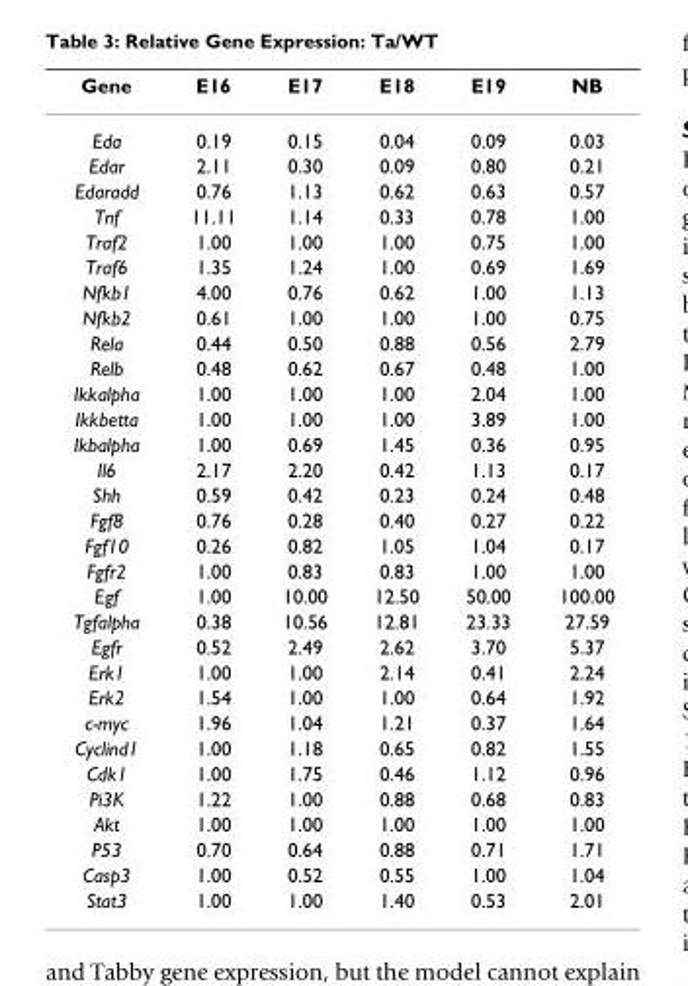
<table><thead><tr><td>Gene</td><td>E16</td><td>E17</td><td>E18</td><td>E19</td><td>NB</td></tr></thead><tbody><tr><td>Eda</td><td>0.19</td><td>0.15</td><td>0.04</td><td>0.09</td><td>0.03</td></tr><tr><td>Edar</td><td>2.11</td><td>0.30</td><td>0.09</td><td>0.80</td><td>0.21</td></tr><tr><td>Edaradd</td><td>0.76</td><td>1.13</td><td>0.62</td><td>0.63</td><td>0.57</td></tr><tr><td>Tnf</td><td>11.11</td><td>1.14</td><td>0.33</td><td>0.78</td><td>1.00</td></tr><tr><td>Traf2</td><td>1.00</td><td>1.00</td><td>1.00</td><td>0.75</td><td>1.00</td></tr><tr><td>Traf6</td><td>1.35</td><td>1.24</td><td>1.00</td><td>0.69</td><td>1.69</td></tr><tr><td>Nfkb1</td><td>4.00</td><td>0.76</td><td>0.62</td><td>1.00</td><td>1.13</td></tr><tr><td>Nfkb2</td><td>0.61</td><td>1.00</td><td>1.00</td><td>1.00</td><td>0.75</td></tr><tr><td>Rela</td><td>0.44</td><td>0.50</td><td>0.88</td><td>0.56</td><td>2.79</td></tr><tr><td>Relb</td><td>0.48</td><td>0.62</td><td>0.67</td><td>0.48</td><td>1.00</td></tr><tr><td>Ikkalpha</td><td>1.00</td><td>1.00</td><td>1.00</td><td>2.04</td><td>1.00</td></tr><tr><td>Ikkbetta</td><td>1.00</td><td>1.00</td><td>1.00</td><td>3.89</td><td>1.00</td></tr><tr><td>Ikbalpha</td><td>1.00</td><td>0.69</td><td>1.45</td><td>0.36</td><td>0.95</td></tr><tr><td>Il6</td><td>2.17</td><td>2.20</td><td>0.42</td><td>1.13</td><td>0.17</td></tr><tr><td>Shh</td><td>0.59</td><td>0.42</td><td>0.23</td><td>0.24</td><td>0.48</td></tr><tr><td>Fgf8</td><td>0.76</td><td>0.28</td><td>0.40</td><td>0.27</td><td>0.22</td></tr><tr><td>Fgf10</td><td>0.26</td><td>0.82</td><td>1.05</td><td>1.04</td><td>0.17</td></tr><tr><td>Fgfr2</td><td>1.00</td><td>0.83</td><td>0.83</td><td>1.00</td><td>1.00</td></tr><tr><td>Egf</td><td>1.00</td><td>10.00</td><td>12.50</td><td>50.00</td><td>100.00</td></tr><tr><td>Tgfalpha</td><td>0.38</td><td>10.56</td><td>12.81</td><td>23.33</td><td>27.59</td></tr><tr><td>Egfr</td><td>0.52</td><td>2.49</td><td>2.62</td><td>3.70</td><td>5.37</td></tr><tr><td>Erk1</td><td>1.00</td><td>1.00</td><td>2.14</td><td>0.41</td><td>2.24</td></tr><tr><td>Erk2</td><td>1.54</td><td>1.00</td><td>1.00</td><td>0.64</td><td>1.92</td></tr><tr><td>c-myc</td><td>1.96</td><td>1.04</td><td>1.21</td><td>0.37</td><td>1.64</td></tr><tr><td>Cyclind1</td><td>1.00</td><td>1.18</td><td>0.65</td><td>0.82</td><td>1.55</td></tr><tr><td>Cdk1</td><td>1.00</td><td>1.75</td><td>0.46</td><td>1.12</td><td>0.96</td></tr><tr><td>Pi3K</td><td>1.22</td><td>1.00</td><td>0.88</td><td>0.68</td><td>0.83</td></tr><tr><td>Akt</td><td>1.00</td><td>1.00</td><td>1.00</td><td>1.00</td><td>1.00</td></tr><tr><td>P53</td><td>0.70</td><td>0.64</td><td>0.88</td><td>0.71</td><td>1.71</td></tr><tr><td>Casp3</td><td>1.00</td><td>0.52</td><td>0.55</td><td>1.00</td><td>1.04</td></tr><tr><td>Stat3</td><td>1.00</td><td>1.00</td><td>1.40</td><td>0.53</td><td>2.01</td></tr></tbody></table>